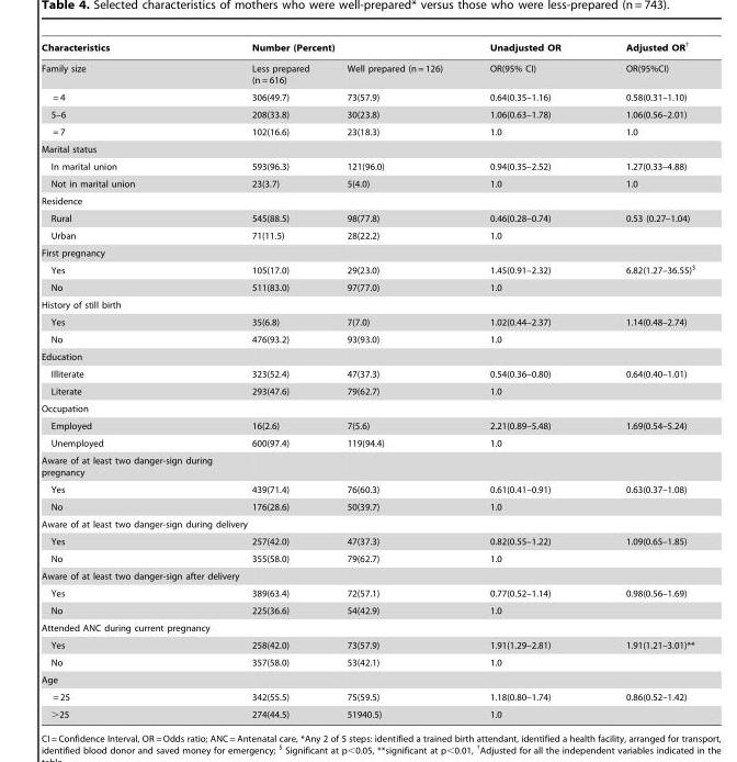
<table><thead><tr><td rowspan="2">Characteristics Family size</td><td colspan="2">Number (Percent)</td><td rowspan="2">Unadjusted OR OR(95% CI)</td><td rowspan="2">Adjusted OR<sup>†</sup> OR(95%CI)</td></tr><tr><td>Less prepared (n = 616)</td><td>Well prepared (n = 126)</td></tr></thead><tbody><tr><td>= 4</td><td>306(49.7)</td><td>73(57.9)</td><td>0.64(0.35–1.16)</td><td>0.58(0.31–1.10)</td></tr><tr><td>5–6</td><td>208(33.8)</td><td>30(23.8)</td><td>1.06(0.63–1.78)</td><td>1.06(0.56–2.01)</td></tr><tr><td>= 7</td><td>102(16.6)</td><td>23(18.3)</td><td>1.0</td><td>1.0</td></tr><tr><td colspan="5">Marital status</td></tr><tr><td>In marital union</td><td>593(96.3)</td><td>121(96.0)</td><td>0.94(0.35–2.52)</td><td>1.27(0.33–4.88)</td></tr><tr><td>Not in marital union</td><td>23(3.7)</td><td>5(4.0)</td><td>1.0</td><td>1.0</td></tr><tr><td colspan="5">Residence</td></tr><tr><td>Rural</td><td>545(88.5)</td><td>98(77.8)</td><td>0.46(0.28–0.74)</td><td>0.53 (0.27–1.04)</td></tr><tr><td>Urban</td><td>71(11.5)</td><td>28(22.2)</td><td>1.0</td><td></td></tr><tr><td colspan="5">First pregnancy</td></tr><tr><td>Yes</td><td>105(17.0)</td><td>29(23.0)</td><td>1.45(0.91–2.32)</td><td>6.82(1.27–36.55)<sup>$</sup></td></tr><tr><td>No</td><td>511(83.0)</td><td>97(77.0)</td><td>1.0</td><td></td></tr><tr><td colspan="5">History of still birth</td></tr><tr><td>Yes</td><td>35(6.8)</td><td>7(7.0)</td><td>1.02(0.44–2.37)</td><td>1.14(0.48–2.74)</td></tr><tr><td>No</td><td>476(93.2)</td><td>93(93.0)</td><td>1.0</td><td></td></tr><tr><td colspan="5">Education</td></tr><tr><td>Illiterate</td><td>323(52.4)</td><td>47(37.3)</td><td>0.54(0.36–0.80)</td><td>0.64(0.40–1.01)</td></tr><tr><td>Literate</td><td>293(47.6)</td><td>79(62.7)</td><td>1.0</td><td></td></tr><tr><td colspan="5">Occupation</td></tr><tr><td>Employed</td><td>16(2.6)</td><td>7(5.6)</td><td>2.21(0.89–5.48)</td><td>1.69(0.54–5.24)</td></tr><tr><td>Unemployed</td><td>600(97.4)</td><td>119(94.4)</td><td>1.0</td><td></td></tr><tr><td colspan="5">Aware of at least two danger-sign during pregnancy</td></tr><tr><td>Yes</td><td>439(71.4)</td><td>76(60.3)</td><td>0.61(0.41–0.91)</td><td>0.63(0.37–1.08)</td></tr><tr><td>No</td><td>176(28.6)</td><td>50(39.7)</td><td>1.0</td><td></td></tr><tr><td colspan="5">Aware of at least two danger-sign during delivery</td></tr><tr><td>Yes</td><td>257(42.0)</td><td>47(37.3)</td><td>0.82(0.55–1.22)</td><td>1.09(0.65–1.85)</td></tr><tr><td>No</td><td>355(58.0)</td><td>79(62.7)</td><td>1.0</td><td></td></tr><tr><td colspan="5">Aware of at least two danger-sign after delivery</td></tr><tr><td>Yes</td><td>389(63.4)</td><td>72(57.1)</td><td>0.77(0.52–1.14)</td><td>0.98(0.56–1.69)</td></tr><tr><td>No</td><td>225(36.6)</td><td>54(42.9)</td><td>1.0</td><td></td></tr><tr><td colspan="5">Attended ANC during current pregnancy</td></tr><tr><td>Yes</td><td>258(42.0)</td><td>73(57.9)</td><td>1.91(1.29–2.81)</td><td>1.91(1.21–3.01)**</td></tr><tr><td>No</td><td>357(58.0)</td><td>53(42.1)</td><td>1.0</td><td></td></tr><tr><td colspan="5">Age</td></tr><tr><td>= 25</td><td>342(55.5)</td><td>75(59.5)</td><td>1.18(0.80–1.74)</td><td>0.86(0.52–1.42)</td></tr><tr><td>&gt;25</td><td>274(44.5)</td><td>51940.5)</td><td>1.0</td><td></td></tr></tbody></table>